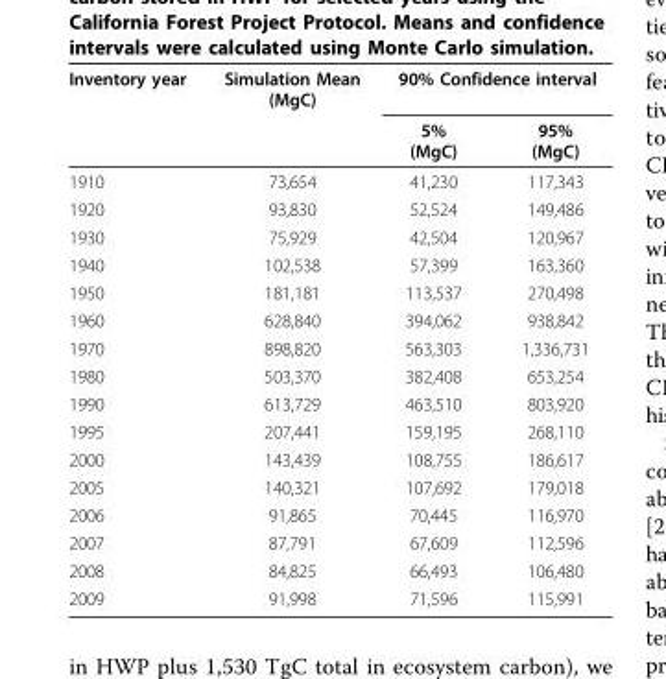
<table><thead><tr><td rowspan="2">Inventory year</td><td rowspan="2">Simulation Mean (MgC)</td><td colspan="2">90% Confidence interval</td></tr><tr><td>5% (MgC)</td><td>95% (MgC)</td></tr></thead><tbody><tr><td>1910</td><td>73,654</td><td>41,230</td><td>117,343</td></tr><tr><td>1920</td><td>93,830</td><td>52,524</td><td>149,486</td></tr><tr><td>1930</td><td>75,929</td><td>42,504</td><td>120,967</td></tr><tr><td>1940</td><td>102,538</td><td>57,399</td><td>163,360</td></tr><tr><td>1950</td><td>181,181</td><td>113,537</td><td>270,498</td></tr><tr><td>1960</td><td>628,840</td><td>394,062</td><td>938,842</td></tr><tr><td>1970</td><td>898,820</td><td>563,303</td><td>1,336,731</td></tr><tr><td>1980</td><td>503,370</td><td>382,408</td><td>653,254</td></tr><tr><td>1990</td><td>613,729</td><td>463,510</td><td>803,920</td></tr><tr><td>1995</td><td>207,441</td><td>159,195</td><td>268,110</td></tr><tr><td>2000</td><td>143,439</td><td>108,755</td><td>186,617</td></tr><tr><td>2005</td><td>140,321</td><td>107,692</td><td>179,018</td></tr><tr><td>2006</td><td>91,865</td><td>70,445</td><td>116,970</td></tr><tr><td>2007</td><td>87,791</td><td>67,609</td><td>112,596</td></tr><tr><td>2008</td><td>84,825</td><td>66,493</td><td>106,480</td></tr><tr><td>2009</td><td>91,998</td><td>71,596</td><td>115,991</td></tr></tbody></table>